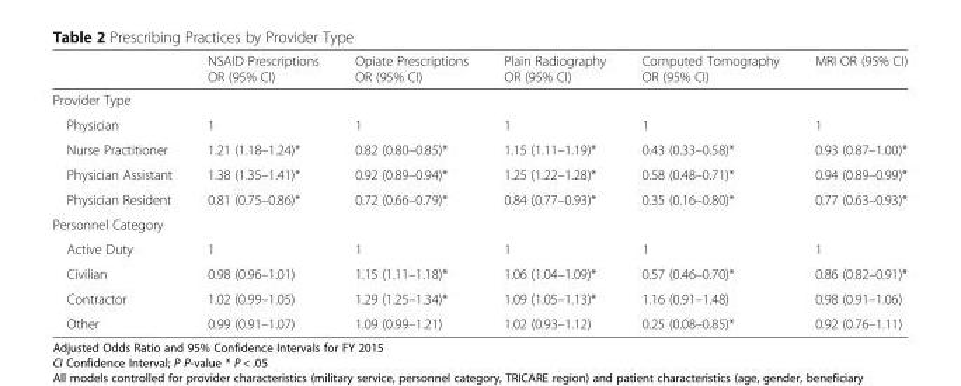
<table><thead><tr><td></td><td>NSAID Prescriptions OR (95% CI)</td><td>Opiate Prescriptions OR (95% CI)</td><td>Plain Radiography OR (95% CI)</td><td>Computed Tomography OR (95% CI)</td><td>MRI OR (95% CI)</td></tr></thead><tbody><tr><td colspan="6">Provider Type</td></tr><tr><td>Physician</td><td>1</td><td>1</td><td>1</td><td>1</td><td>1</td></tr><tr><td>Nurse Practitioner</td><td>1.21 (1.18–1.24)*</td><td>0.82 (0.80–0.85)*</td><td>1.15 (1.11–1.19)*</td><td>0.43 (0.33–0.58)*</td><td>0.93 (0.87–1.00)*</td></tr><tr><td>Physician Assistant</td><td>1.38 (1.35–1.41)*</td><td>0.92 (0.89–0.94)*</td><td>1.25 (1.22–1.28)*</td><td>0.58 (0.48–0.71)*</td><td>0.94 (0.89–0.99)*</td></tr><tr><td>Physician Resident</td><td>0.81 (0.75–0.86)*</td><td>0.72 (0.66–0.79)*</td><td>0.84 (0.77–0.93)*</td><td>0.35 (0.16–0.80)*</td><td>0.77 (0.63–0.93)*</td></tr><tr><td colspan="6">Personnel Category</td></tr><tr><td>Active Duty</td><td>1</td><td>1</td><td>1</td><td>1</td><td>1</td></tr><tr><td>Civilian</td><td>0.98 (0.96–1.01)</td><td>1.15 (1.11–1.18)*</td><td>1.06 (1.04–1.09)*</td><td>0.57 (0.46–0.70)*</td><td>0.86 (0.82–0.91)*</td></tr><tr><td>Contractor</td><td>1.02 (0.99–1.05)</td><td>1.29 (1.25–1.34)*</td><td>1.09 (1.05–1.13)*</td><td>1.16 (0.91–1.48)</td><td>0.98 (0.91–1.06)</td></tr><tr><td>Other</td><td>0.99 (0.91–1.07)</td><td>1.09 (0.99–1.21)</td><td>1.02 (0.93–1.12)</td><td>0.25 (0.08–0.85)*</td><td>0.92 (0.76–1.11)</td></tr></tbody></table>